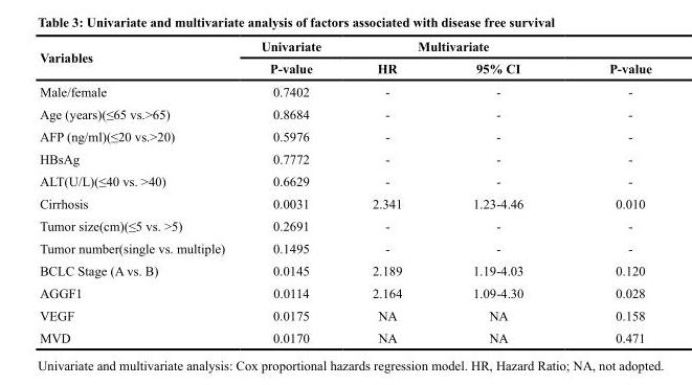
<table><thead><tr><td rowspan="2">Variables</td><td rowspan="2">Univariate P-value</td><td colspan="2">Multivariate</td><td rowspan="2">P-value</td></tr><tr><td>HR</td><td>95% CI</td></tr></thead><tbody><tr><td>Male/female</td><td>0.7402</td><td>-</td><td>-</td><td>-</td></tr><tr><td>Age (years)(≤65 vs.&gt;65)</td><td>0.8684</td><td>-</td><td>-</td><td>-</td></tr><tr><td>AFP (ng/ml)(≤20 vs.&gt;20)</td><td>0.5976</td><td>-</td><td>-</td><td>-</td></tr><tr><td>HBsAg</td><td>0.7772</td><td>-</td><td>-</td><td>-</td></tr><tr><td>ALT(U/L)(≤40 vs. &gt;40)</td><td>0.6629</td><td>-</td><td>-</td><td>-</td></tr><tr><td>Cirrhosis</td><td>0.0031</td><td>2.341</td><td>1.23-4.46</td><td>0.010</td></tr><tr><td>Tumor size(cm)(≤5 vs. &gt;5)</td><td>0.2691</td><td>-</td><td>-</td><td>-</td></tr><tr><td>Tumor number(single vs. multiple)</td><td>0.1495</td><td>-</td><td>-</td><td>-</td></tr><tr><td>BCLC Stage (A vs. B)</td><td>0.0145</td><td>2.189</td><td>1.19-4.03</td><td>0.120</td></tr><tr><td>AGGF1</td><td>0.0114</td><td>2.164</td><td>1.09-4.30</td><td>0.028</td></tr><tr><td>VEGF</td><td>0.0175</td><td>NA</td><td>NA</td><td>0.158</td></tr><tr><td>MVD</td><td>0.0170</td><td>NA</td><td>NA</td><td>0.471</td></tr></tbody></table>